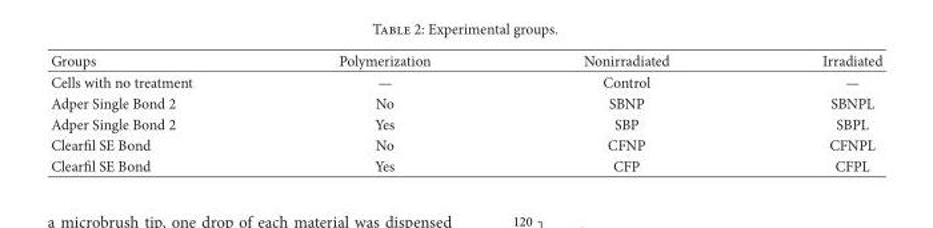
<table><thead><tr><td>Groups</td><td>Polymerization</td><td>Nonirradiated</td><td>Irradiated</td></tr></thead><tbody><tr><td>Cells with no treatment</td><td>—</td><td>Control</td><td>—</td></tr><tr><td>Adper Single Bond 2</td><td>No</td><td>SBNP</td><td>SBNPL</td></tr><tr><td>Adper Single Bond 2</td><td>Yes</td><td>SBP</td><td>SBPL</td></tr><tr><td>Clearfil SE Bond</td><td>No</td><td>CFNP</td><td>CFNPL</td></tr><tr><td>Clearfil SE Bond</td><td>Yes</td><td>CFP</td><td>CFPL</td></tr></tbody></table>